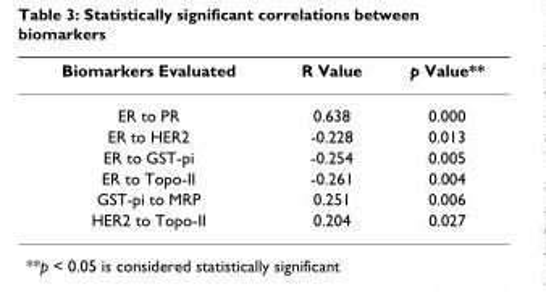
<table><thead><tr><td>Biomarkers Evaluated</td><td>R Value</td><td>p Value**</td></tr></thead><tbody><tr><td>ER to PR</td><td>0.638</td><td>0.000</td></tr><tr><td>ER to HER2</td><td>-0.228</td><td>0.013</td></tr><tr><td>ER to GST-pi</td><td>-0.254</td><td>0.005</td></tr><tr><td>ER to Topo-II</td><td>-0.261</td><td>0.004</td></tr><tr><td>GST-pi to MRP</td><td>0.251</td><td>0.006</td></tr><tr><td>HER2 to Topo-II</td><td>0.204</td><td>0.027</td></tr></tbody></table>